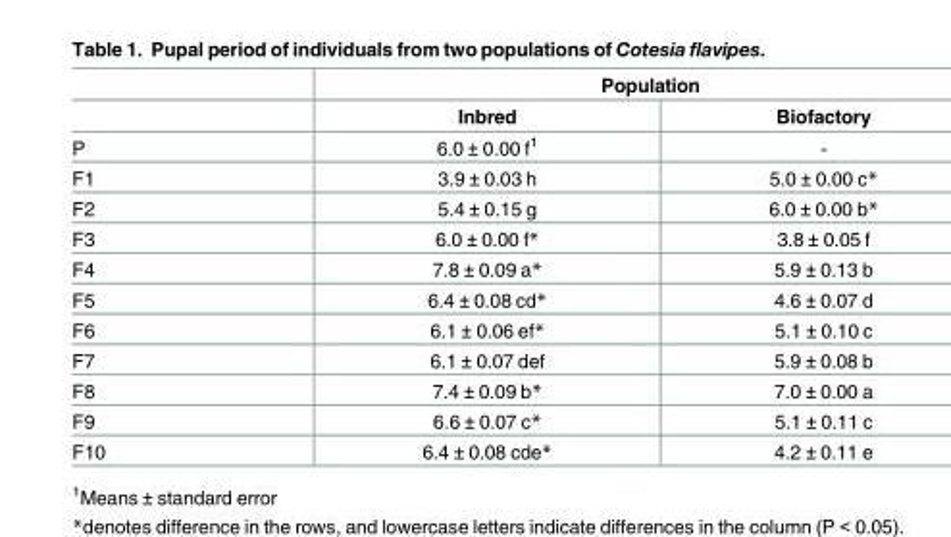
<table><thead><tr><td rowspan="2"></td><td colspan="2">Population</td></tr><tr><td>Inbred</td><td>Biofactory</td></tr></thead><tbody><tr><td>P</td><td>6.0 ± 0.00 f<sup>1</sup></td><td>-</td></tr><tr><td>F1</td><td>3.9 ± 0.03 h</td><td>5.0 ± 0.00 c*</td></tr><tr><td>F2</td><td>5.4 ± 0.15 g</td><td>6.0 ± 0.00 b*</td></tr><tr><td>F3</td><td>6.0 ± 0.00 f*</td><td>3.8 ± 0.05 f</td></tr><tr><td>F4</td><td>7.8 ± 0.09 a*</td><td>5.9 ± 0.13 b</td></tr><tr><td>F5</td><td>6.4 ± 0.08 cd*</td><td>4.6 ± 0.07 d</td></tr><tr><td>F6</td><td>6.1 ± 0.06 ef*</td><td>5.1 ± 0.10 c</td></tr><tr><td>F7</td><td>6.1 ± 0.07 def</td><td>5.9 ± 0.08 b</td></tr><tr><td>F8</td><td>7.4 ± 0.09 b*</td><td>7.0 ± 0.00 a</td></tr><tr><td>F9</td><td>6.6 ± 0.07 c*</td><td>5.1 ± 0.11 c</td></tr><tr><td>F10</td><td>6.4 ± 0.08 cde*</td><td>4.2 ± 0.11 e</td></tr></tbody></table>